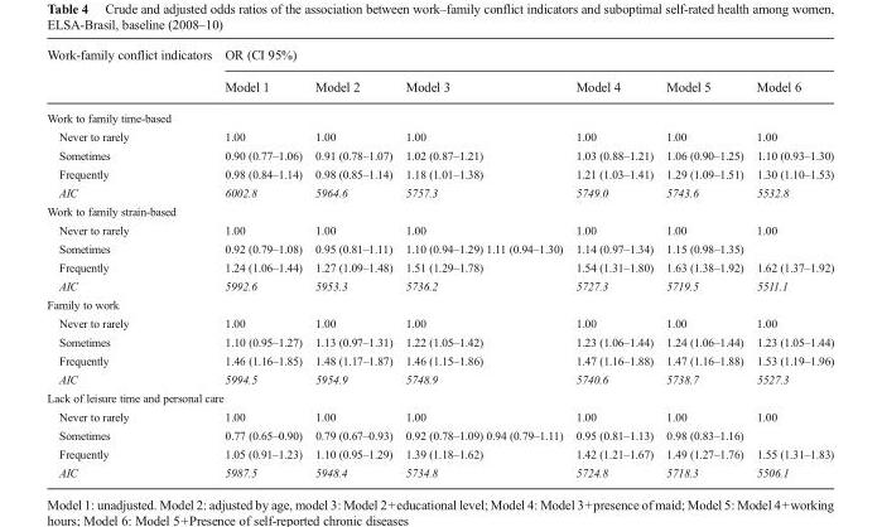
<table><thead><tr><td rowspan="2">Work-family conflict indicators</td><td colspan="6">OR (CI 95%)</td></tr><tr><td>Model 1</td><td>Model 2</td><td>Model 3</td><td>Model 4</td><td>Model 5</td><td>Model 6</td></tr></thead><tbody><tr><td colspan="7">Work to family time-based</td></tr><tr><td>Never to rarely</td><td>1.00</td><td>1.00</td><td>1.00</td><td>1.00</td><td>1.00</td><td>1.00</td></tr><tr><td>Sometimes</td><td>0.90 (0.77–1.06)</td><td>0.91 (0.78–1.07)</td><td>1.02 (0.87–1.21)</td><td>1.03 (0.88–1.21)</td><td>1.06 (0.90–1.25)</td><td>1.10 (0.93–1.30)</td></tr><tr><td>Frequently</td><td>0.98 (0.84–1.14)</td><td>0.98 (0.85–1.14)</td><td>1.18 (1.01–1.38)</td><td>1.21 (1.03–1.41)</td><td>1.29 (1.09–1.51)</td><td>1.30 (1.10–1.53)</td></tr><tr><td>AIC</td><td>6002.8</td><td>5964.6</td><td>5757.3</td><td>5749.0</td><td>5743.6</td><td>5532.8</td></tr><tr><td colspan="7">Work to family strain-based</td></tr><tr><td>Never to rarely</td><td>1.00</td><td>1.00</td><td>1.00</td><td>1.00</td><td>1.00</td><td>1.00</td></tr><tr><td>Sometimes</td><td>0.92 (0.79–1.08)</td><td>0.95 (0.81–1.11)</td><td>1.10 (0.94–1.29) 1.11 (0.94–1.30)</td><td>1.14 (0.97–1.34)</td><td>1.15 (0.98–1.35)</td><td></td></tr><tr><td>Frequently</td><td>1.24 (1.06–1.44)</td><td>1.27 (1.09–1.48)</td><td>1.51 (1.29–1.78)</td><td>1.54 (1.31–1.80)</td><td>1.63 (1.38–1.92)</td><td>1.62 (1.37–1.92)</td></tr><tr><td>AIC</td><td>5992.6</td><td>5953.3</td><td>5736.2</td><td>5727.3</td><td>5719.5</td><td>5511.1</td></tr><tr><td colspan="7">Family to work</td></tr><tr><td>Never to rarely</td><td>1.00</td><td>1.00</td><td>1.00</td><td>1.00</td><td>1.00</td><td>1.00</td></tr><tr><td>Sometimes</td><td>1.10 (0.95–1.27)</td><td>1.13 (0.97–1.31)</td><td>1.22 (1.05–1.42)</td><td>1.23 (1.06–1.44)</td><td>1.24 (1.06–1.44)</td><td>1.23 (1.05–1.44)</td></tr><tr><td>Frequently</td><td>1.46 (1.16–1.85)</td><td>1.48 (1.17–1.87)</td><td>1.46 (1.15–1.86)</td><td>1.47 (1.16–1.88)</td><td>1.47 (1.16–1.88)</td><td>1.53 (1.19–1.96)</td></tr><tr><td>AIC</td><td>5994.5</td><td>5954.9</td><td>5748.9</td><td>5740.6</td><td>5738.7</td><td>5527.3</td></tr><tr><td colspan="7">Lack of leisure time and personal care</td></tr><tr><td>Never to rarely</td><td>1.00</td><td>1.00</td><td>1.00</td><td>1.00</td><td>1.00</td><td>1.00</td></tr><tr><td>Sometimes</td><td>0.77 (0.65–0.90)</td><td>0.79 (0.67–0.93)</td><td>0.92 (0.78–1.09) 0.94 (0.79–1.11)</td><td>0.95 (0.81–1.13)</td><td>0.98 (0.83–1.16)</td><td></td></tr><tr><td>Frequently</td><td>1.05 (0.91–1.23)</td><td>1.10 (0.95–1.29)</td><td>1.39 (1.18–1.62)</td><td>1.42 (1.21–1.67)</td><td>1.49 (1.27–1.76)</td><td>1.55 (1.31–1.83)</td></tr><tr><td>AIC</td><td>5987.5</td><td>5948.4</td><td>5734.8</td><td>5724.8</td><td>5718.3</td><td>5506.1</td></tr></tbody></table>